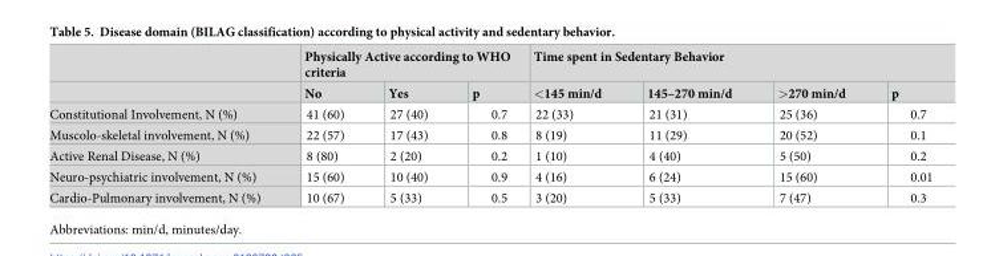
<table><thead><tr><td rowspan="2"></td><td colspan="3">Physically Active according to WHO criteria</td><td colspan="4">Time spent in Sedentary Behavior</td></tr><tr><td>No</td><td>Yes</td><td>p</td><td>&lt;145 min/d</td><td>145–270 min/d</td><td>&gt;270 min/d</td><td>p</td></tr></thead><tbody><tr><td>Constitutional Involvement, N (%)</td><td>41 (60)</td><td>27 (40)</td><td>0.7</td><td>22 (33)</td><td>21 (31)</td><td>25 (36)</td><td>0.7</td></tr><tr><td>Muscolo-skeletal involvement, N (%)</td><td>22 (57)</td><td>17 (43)</td><td>0.8</td><td>8 (19)</td><td>11 (29)</td><td>20 (52)</td><td>0.1</td></tr><tr><td>Active Renal Disease, N (%)</td><td>8 (80)</td><td>2 (20)</td><td>0.2</td><td>1 (10)</td><td>4 (40)</td><td>5 (50)</td><td>0.2</td></tr><tr><td>Neuro-psychiatric involvement, N (%)</td><td>15 (60)</td><td>10 (40)</td><td>0.9</td><td>4 (16)</td><td>6 (24)</td><td>15 (60)</td><td>0.01</td></tr><tr><td>Cardio-Pulmonary involvement, N (%)</td><td>10 (67)</td><td>5 (33)</td><td>0.5</td><td>3 (20)</td><td>5 (33)</td><td>7 (47)</td><td>0.3</td></tr></tbody></table>